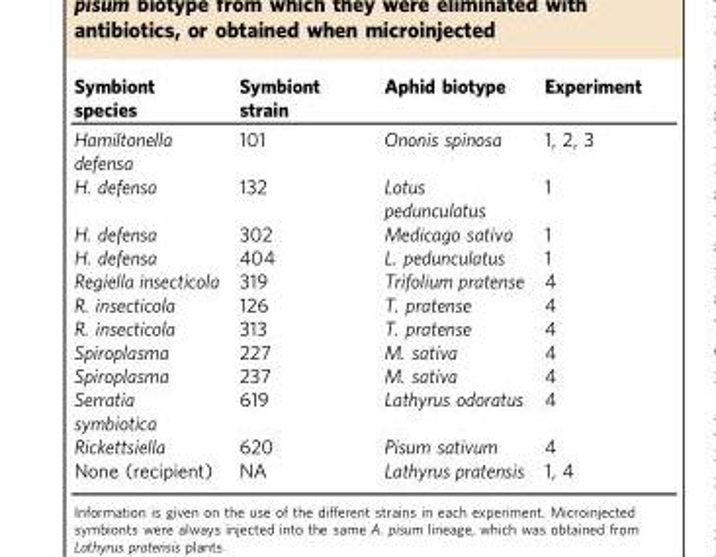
<table><thead><tr><td>Symbiont species</td><td>Symbiont strain</td><td>Aphid biotype</td><td>Experiment</td></tr></thead><tbody><tr><td>Hamiltonella defensa</td><td>101</td><td>Ononis spinosa</td><td>1, 2, 3</td></tr><tr><td>H. defensa</td><td>132</td><td>Lotus pedunculatus</td><td>1</td></tr><tr><td>H. defensa</td><td>302</td><td>Medicago sativa</td><td>1</td></tr><tr><td>H. defensa</td><td>404</td><td>L. pedunculatus</td><td>1</td></tr><tr><td>Regiella insecticola</td><td>319</td><td>Trifolium pratense</td><td>4</td></tr><tr><td>R. insecticola</td><td>126</td><td>T. pratense</td><td>4</td></tr><tr><td>R. insecticola</td><td>313</td><td>T. pratense</td><td>4</td></tr><tr><td>Spiroplasma</td><td>227</td><td>M. sativa</td><td>4</td></tr><tr><td>Spiroplasma</td><td>237</td><td>M. sativa</td><td>4</td></tr><tr><td>Serratia symbiotica</td><td>619</td><td>Lathyrus odoratus</td><td>4</td></tr><tr><td>Rickettsiella</td><td>620</td><td>Pisum sativum</td><td>4</td></tr><tr><td>None (recipient)</td><td>NA</td><td>Lathyrus pratensis</td><td>1, 4</td></tr></tbody></table>